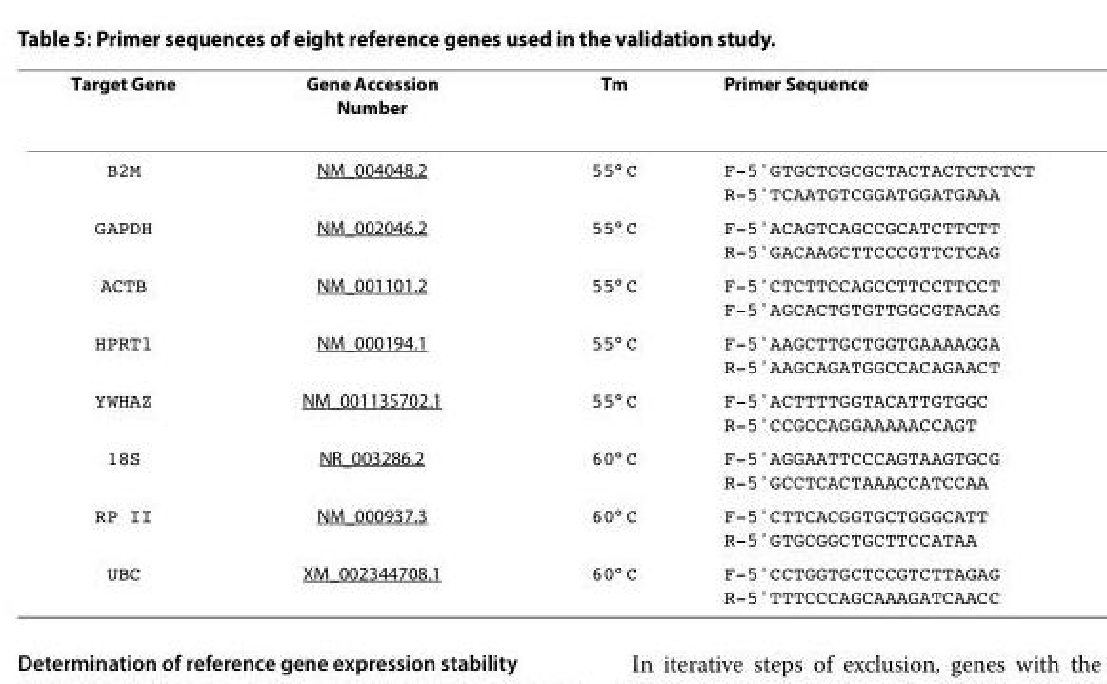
<table><thead><tr><td>Target Gene</td><td>Gene Accession Number</td><td>Tm</td><td>Primer Sequence</td></tr></thead><tbody><tr><td>B2M</td><td>NM_004048.2</td><td>55° C</td><td>F-5&#x27;GTGCTCGCGCTACTACTCTCTCT R-5&#x27;TCAATGTCGGATGGATGAAA</td></tr><tr><td>GAPDH</td><td>NM_002046.2</td><td>55° C</td><td>F-5&#x27;ACAGTCAGCCGCATCTTCTT R-5&#x27;GACAAGCTTCCCGTTCTCAG</td></tr><tr><td>ACTB</td><td>NM_001101.2</td><td>55° C</td><td>F-5&#x27;CTCTTCCAGCCTTCCTTCCT F-5&#x27;AGCACTGTGTTGGCGTACAG</td></tr><tr><td>HPRT1</td><td>NM_000194.1</td><td>55° C</td><td>F-5&#x27;AAGCTTGCTGGTGAAAAGGA R-5&#x27;AAGCAGATGGCCACAGAACT</td></tr><tr><td>YWHAZ</td><td>NM_001135702.1</td><td>55° C</td><td>F-5&#x27;ACTTTTGGTACATTGTGGC R-5&#x27;CCGCCAGGAAAAACCAGT</td></tr><tr><td>18S</td><td>NR_003286.2</td><td>60° C</td><td>F-5&#x27;AGGAATTCCCAGTAAGTGCG R-5&#x27;GCCTCACTAAACCATCCAA</td></tr><tr><td>RP II</td><td>NM_000937.3</td><td>60° C</td><td>F-5&#x27;CTTCACGGTGCTGGGCATT R-5&#x27;GTGCGGCTGCTTCCATAA</td></tr><tr><td>UBC</td><td>XM_002344708.1</td><td>60° C</td><td>F-5&#x27;CCTGGTGCTCCGTCTTAGAG R-5&#x27;TTTCCCAGCAAAGATCAACC</td></tr></tbody></table>